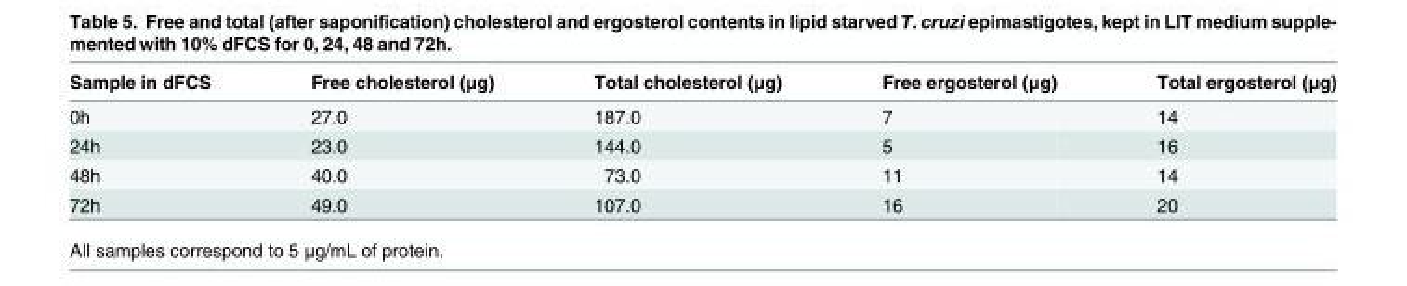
<table><thead><tr><td>Sample in dFCS</td><td>Free cholesterol (μg)</td><td>Total cholesterol (μg)</td><td>Free ergosterol (μg)</td><td>Total ergosterol (μg)</td></tr></thead><tbody><tr><td>0h</td><td>27.0</td><td>187.0</td><td>7</td><td>14</td></tr><tr><td>24h</td><td>23.0</td><td>144.0</td><td>5</td><td>16</td></tr><tr><td>48h</td><td>40.0</td><td>73.0</td><td>11</td><td>14</td></tr><tr><td>72h</td><td>49.0</td><td>107.0</td><td>16</td><td>20</td></tr></tbody></table>